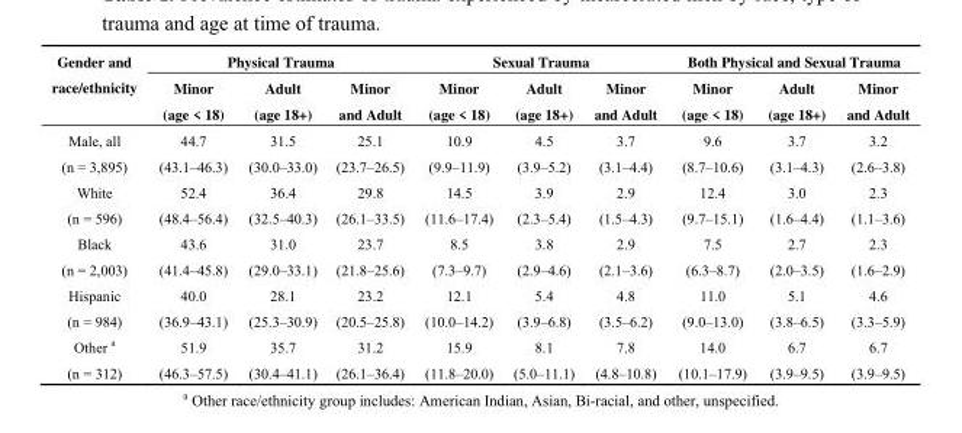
<table><thead><tr><td rowspan="2">Gender and race/ethnicity</td><td colspan="3">Physical Trauma</td><td colspan="3">Sexual Trauma</td><td colspan="3">Both Physical and Sexual Trauma</td></tr><tr><td>Minor (age &lt; 18)</td><td>Adult (age 18+)</td><td>Minor and Adult</td><td>Minor (age &lt; 18)</td><td>Adult (age 18+)</td><td>Minor and Adult</td><td>Minor (age &lt; 18)</td><td>Adult (age 18+)</td><td>Minor and Adult</td></tr></thead><tbody><tr><td>Male, all (n = 3,895)</td><td>44.7 (43.1–46.3)</td><td>31.5 (30.0–33.0)</td><td>25.1 (23.7–26.5)</td><td>10.9 (9.9–11.9)</td><td>4.5 (3.9–5.2)</td><td>3.7 (3.1–4.4)</td><td>9.6 (8.7–10.6)</td><td>3.7 (3.1–4.3)</td><td>3.2 (2.6–3.8)</td></tr><tr><td>White (n = 596)</td><td>52.4 (48.4–56.4)</td><td>36.4 (32.5–40.3)</td><td>29.8 (26.1–33.5)</td><td>14.5 (11.6–17.4)</td><td>3.9 (2.3–5.4)</td><td>2.9 (1.5–4.3)</td><td>12.4 (9.7–15.1)</td><td>3.0 (1.6–4.4)</td><td>2.3 (1.1–3.6)</td></tr><tr><td>Black (n = 2,003)</td><td>43.6 (41.4–45.8)</td><td>31.0 (29.0–33.1)</td><td>23.7 (21.8–25.6)</td><td>8.5 (7.3–9.7)</td><td>3.8 (2.9–4.6)</td><td>2.9 (2.1–3.6)</td><td>7.5 (6.3–8.7)</td><td>2.7 (2.0–3.5)</td><td>2.3 (1.6–2.9)</td></tr><tr><td>Hispanic (n = 984)</td><td>40.0 (36.9–43.1)</td><td>28.1 (25.3–30.9)</td><td>23.2 (20.5–25.8)</td><td>12.1 (10.0–14.2)</td><td>5.4 (3.9–6.8)</td><td>4.8 (3.5–6.2)</td><td>11.0 (9.0–13.0)</td><td>5.1 (3.8–6.5)</td><td>4.6 (3.3–5.9)</td></tr><tr><td>Other <sup>a</sup> (n = 312)</td><td>51.9 (46.3–57.5)</td><td>35.7 (30.4–41.1)</td><td>31.2 (26.1–36.4)</td><td>15.9 (11.8–20.0)</td><td>8.1 (5.0–11.1)</td><td>7.8 (4.8–10.8)</td><td>14.0 (10.1–17.9)</td><td>6.7 (3.9–9.5)</td><td>6.7 (3.9–9.5)</td></tr></tbody></table>